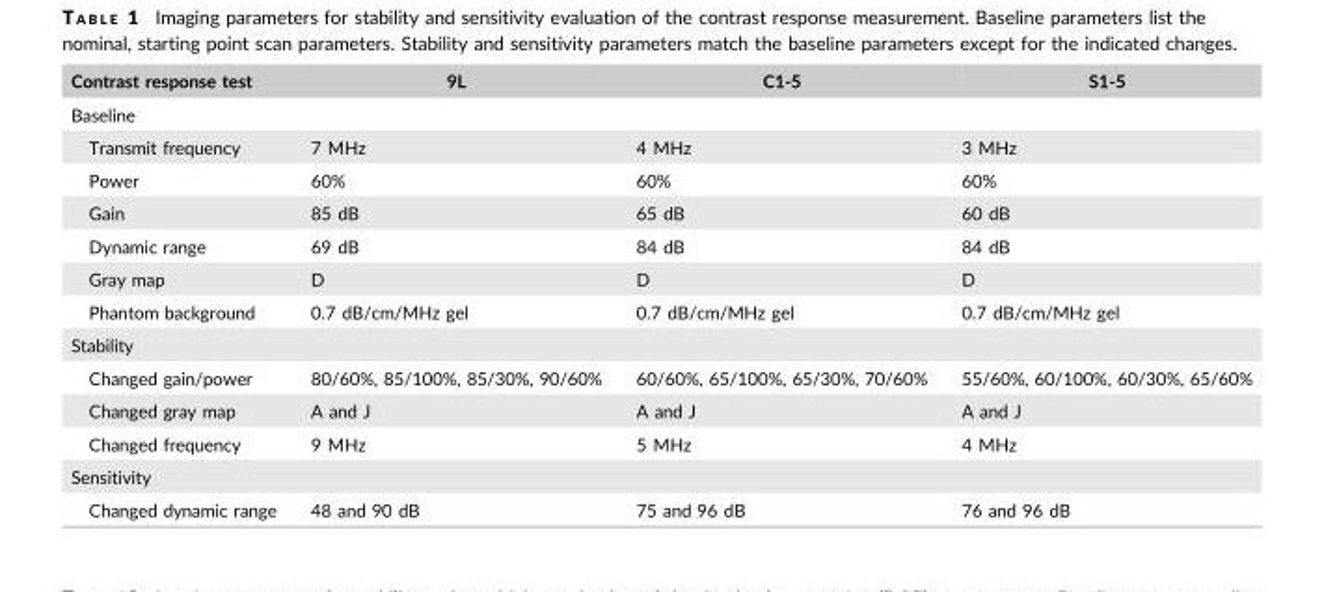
<table><thead><tr><td>Contrast response test</td><td>9L</td><td>C1-5</td><td>S1-5</td></tr></thead><tbody><tr><td colspan="4">Baseline</td></tr><tr><td>Transmit frequency</td><td>7 MHz</td><td>4 MHz</td><td>3 MHz</td></tr><tr><td>Power</td><td>60%</td><td>60%</td><td>60%</td></tr><tr><td>Gain</td><td>85 dB</td><td>65 dB</td><td>60 dB</td></tr><tr><td>Dynamic range</td><td>69 dB</td><td>84 dB</td><td>84 dB</td></tr><tr><td>Gray map</td><td>D</td><td>D</td><td>D</td></tr><tr><td>Phantom background</td><td>0.7 dB/cm/MHz gel</td><td>0.7 dB/cm/MHz gel</td><td>0.7 dB/cm/MHz gel</td></tr><tr><td colspan="4">Stability</td></tr><tr><td>Changed gain/power</td><td>80/60%, 85/100%, 85/30%, 90/60%</td><td>60/60%, 65/100%, 65/30%, 70/60%</td><td>55/60%, 60/100%, 60/30%, 65/60%</td></tr><tr><td>Changed gray map</td><td>A and J</td><td>A and J</td><td>A and J</td></tr><tr><td>Changed frequency</td><td>9 MHz</td><td>5 MHz</td><td>4 MHz</td></tr><tr><td colspan="4">Sensitivity</td></tr><tr><td>Changed dynamic range</td><td>48 and 90 dB</td><td>75 and 96 dB</td><td>76 and 96 dB</td></tr></tbody></table>